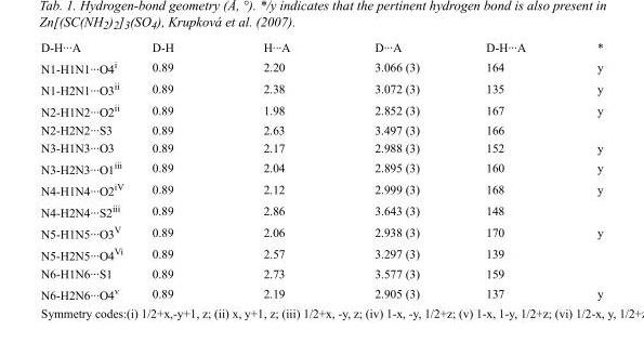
<table><tbody><tr><td>D-H···A</td><td>D-H</td><td>H···A</td><td>D···A</td><td>D-H···A</td><td>*</td></tr><tr><td>N1-H1N1···O4<sup>i</sup></td><td>0.89</td><td>2.20</td><td>3.066 (3)</td><td>164</td><td>y</td></tr><tr><td>N1-H2N1···O3<sup>ii</sup></td><td>0.89</td><td>2.38</td><td>3.072 (3)</td><td>135</td><td>y</td></tr><tr><td>N2-H1N2···O2<sup>ii</sup></td><td>0.89</td><td>1.98</td><td>2.852 (3)</td><td>167</td><td>y</td></tr><tr><td>N2-H2N2···S3</td><td>0.89</td><td>2.63</td><td>3.497 (3)</td><td>166</td><td></td></tr><tr><td>N3-H1N3···O3</td><td>0.89</td><td>2.17</td><td>2.988 (3)</td><td>152</td><td>y</td></tr><tr><td>N3-H2N3···O1<sup>iii</sup></td><td>0.89</td><td>2.04</td><td>2.895 (3)</td><td>160</td><td>y</td></tr><tr><td>N4-H1N4···O2<sup>iV</sup></td><td>0.89</td><td>2.12</td><td>2.999 (3)</td><td>168</td><td>y</td></tr><tr><td>N4-H2N4···S2<sup>iii</sup></td><td>0.89</td><td>2.86</td><td>3.643 (3)</td><td>148</td><td></td></tr><tr><td>N5-H1N5···O3<sup>V</sup></td><td>0.89</td><td>2.06</td><td>2.938 (3)</td><td>170</td><td>y</td></tr><tr><td>N5-H2N5···O4<sup>Vi</sup></td><td>0.89</td><td>2.57</td><td>3.297 (3)</td><td>139</td><td></td></tr><tr><td>N6-H1N6···S1</td><td>0.89</td><td>2.73</td><td>3.577 (3)</td><td>159</td><td></td></tr><tr><td>N6-H2N6···O4<sup>v</sup></td><td>0.89</td><td>2.19</td><td>2.905 (3)</td><td>137</td><td>y</td></tr></tbody></table>